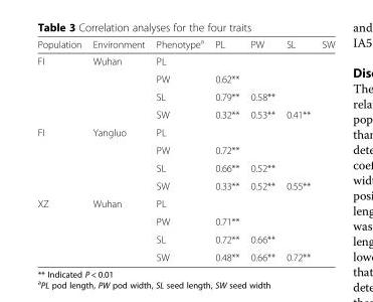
<table><thead><tr><td>Population</td><td>Environment</td><td>Phenotype<sup>a</sup></td><td>PL</td><td>PW</td><td>SL</td><td>SW</td></tr></thead><tbody><tr><td rowspan="4">FI</td><td>Wuhan</td><td>PL</td><td></td><td></td><td></td><td></td></tr><tr><td></td><td>PW</td><td>0.62**</td><td></td><td></td><td></td></tr><tr><td></td><td>SL</td><td>0.79**</td><td>0.58**</td><td></td><td></td></tr><tr><td></td><td>SW</td><td>0.32**</td><td>0.53**</td><td>0.41**</td><td></td></tr><tr><td rowspan="4">FI</td><td>Yangluo</td><td>PL</td><td></td><td></td><td></td><td></td></tr><tr><td></td><td>PW</td><td>0.72**</td><td></td><td></td><td></td></tr><tr><td></td><td>SL</td><td>0.66**</td><td>0.52**</td><td></td><td></td></tr><tr><td></td><td>SW</td><td>0.33**</td><td>0.52**</td><td>0.55**</td><td></td></tr><tr><td rowspan="4">XZ</td><td>Wuhan</td><td>PL</td><td></td><td></td><td></td><td></td></tr><tr><td></td><td>PW</td><td>0.71**</td><td></td><td></td><td></td></tr><tr><td></td><td>SL</td><td>0.72**</td><td>0.66**</td><td></td><td></td></tr><tr><td></td><td>SW</td><td>0.48**</td><td>0.66**</td><td>0.72**</td><td></td></tr></tbody></table>